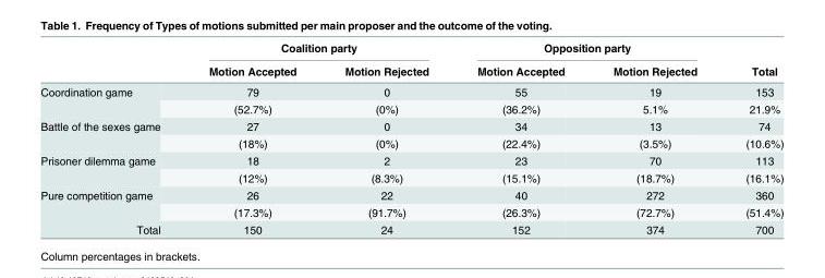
<table><thead><tr><td rowspan="2"></td><td colspan="2">Coalition party</td><td colspan="2">Opposition party</td><td rowspan="2">Total</td></tr><tr><td>Motion Accepted</td><td>Motion Rejected</td><td>Motion Accepted</td><td>Motion Rejected</td></tr></thead><tbody><tr><td rowspan="2">Coordination game</td><td>79</td><td>0</td><td>55</td><td>19</td><td>153</td></tr><tr><td>(52.7%)</td><td>(0%)</td><td>(36.2%)</td><td>5.1%</td><td>21.9%</td></tr><tr><td rowspan="2">Battle of the sexes game</td><td>27</td><td>0</td><td>34</td><td>13</td><td>74</td></tr><tr><td>(18%)</td><td>(0%)</td><td>(22.4%)</td><td>(3.5%)</td><td>(10.6%)</td></tr><tr><td rowspan="2">Prisoner dilemma game</td><td>18</td><td>2</td><td>23</td><td>70</td><td>113</td></tr><tr><td>(12%)</td><td>(8.3%)</td><td>(15.1%)</td><td>(18.7%)</td><td>(16.1%)</td></tr><tr><td rowspan="2">Pure competition game</td><td>26</td><td>22</td><td>40</td><td>272</td><td>360</td></tr><tr><td>(17.3%)</td><td>(91.7%)</td><td>(26.3%)</td><td>(72.7%)</td><td>(51.4%)</td></tr><tr><td>Total</td><td>150</td><td>24</td><td>152</td><td>374</td><td>700</td></tr></tbody></table>